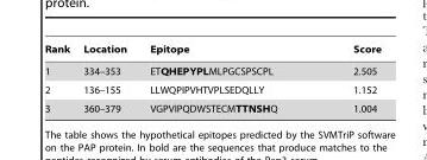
<table><thead><tr><td>Rank</td><td>Location</td><td>Epitope</td><td>Score</td></tr></thead><tbody><tr><td>1</td><td>334–353</td><td>ETQHEPYPLMLPGCSPSCPL</td><td>2.505</td></tr><tr><td>2</td><td>136–155</td><td>LLWQPIPVHTVPLSEDQLLY</td><td>1.152</td></tr><tr><td>3</td><td>360–379</td><td>VGPVIPQDWSTECMTTNSHQ</td><td>1.004</td></tr></tbody></table>